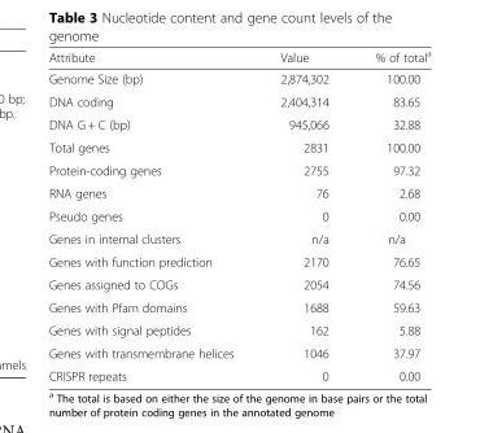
<table><thead><tr><td>Attribute</td><td>Value</td><td>% of total<sup>a</sup></td></tr></thead><tbody><tr><td>Genome Size (bp)</td><td>2,874,302</td><td>100.00</td></tr><tr><td>DNA coding</td><td>2,404,314</td><td>83.65</td></tr><tr><td>DNA G + C (bp)</td><td>945,066</td><td>32.88</td></tr><tr><td>Total genes</td><td>2831</td><td>100.00</td></tr><tr><td>Protein-coding genes</td><td>2755</td><td>97.32</td></tr><tr><td>RNA genes</td><td>76</td><td>2.68</td></tr><tr><td>Pseudo genes</td><td>0</td><td>0.00</td></tr><tr><td>Genes in internal clusters</td><td>n/a</td><td>n/a</td></tr><tr><td>Genes with function prediction</td><td>2170</td><td>76.65</td></tr><tr><td>Genes assigned to COGs</td><td>2054</td><td>74.56</td></tr><tr><td>Genes with Pfam domains</td><td>1688</td><td>59.63</td></tr><tr><td>Genes with signal peptides</td><td>162</td><td>5.88</td></tr><tr><td>Genes with transmembrane helices</td><td>1046</td><td>37.97</td></tr><tr><td>CRISPR repeats</td><td>0</td><td>0.00</td></tr></tbody></table>